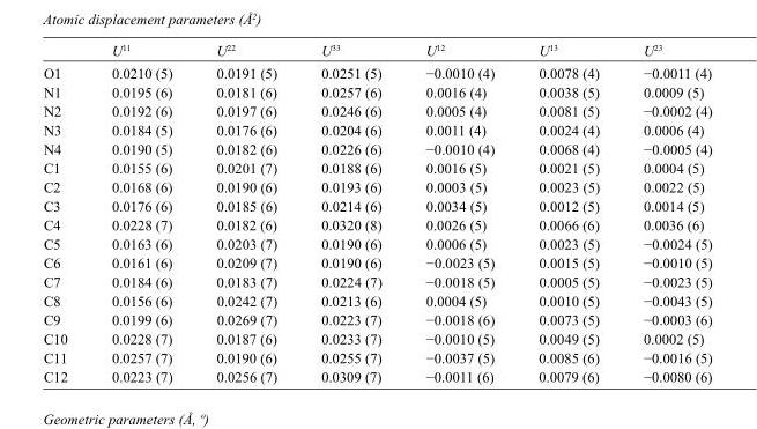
<table><thead><tr><td></td><td>U<sup>11</sup></td><td>U<sup>22</sup></td><td>U<sup>33</sup></td><td>U<sup>12</sup></td><td>U<sup>13</sup></td><td>U<sup>23</sup></td></tr></thead><tbody><tr><td>O1</td><td>0.0210 (5)</td><td>0.0191 (5)</td><td>0.0251 (5)</td><td>−0.0010 (4)</td><td>0.0078 (4)</td><td>−0.0011 (4)</td></tr><tr><td>N1</td><td>0.0195 (6)</td><td>0.0181 (6)</td><td>0.0257 (6)</td><td>0.0016 (4)</td><td>0.0038 (5)</td><td>0.0009 (5)</td></tr><tr><td>N2</td><td>0.0192 (6)</td><td>0.0197 (6)</td><td>0.0246 (6)</td><td>0.0005 (4)</td><td>0.0081 (5)</td><td>−0.0002 (4)</td></tr><tr><td>N3</td><td>0.0184 (5)</td><td>0.0176 (6)</td><td>0.0204 (6)</td><td>0.0011 (4)</td><td>0.0024 (4)</td><td>0.0006 (4)</td></tr><tr><td>N4</td><td>0.0190 (5)</td><td>0.0182 (6)</td><td>0.0226 (6)</td><td>−0.0010 (4)</td><td>0.0068 (4)</td><td>−0.0005 (4)</td></tr><tr><td>C1</td><td>0.0155 (6)</td><td>0.0201 (7)</td><td>0.0188 (6)</td><td>0.0016 (5)</td><td>0.0021 (5)</td><td>0.0004 (5)</td></tr><tr><td>C2</td><td>0.0168 (6)</td><td>0.0190 (6)</td><td>0.0193 (6)</td><td>0.0003 (5)</td><td>0.0023 (5)</td><td>0.0022 (5)</td></tr><tr><td>C3</td><td>0.0176 (6)</td><td>0.0185 (6)</td><td>0.0214 (6)</td><td>0.0034 (5)</td><td>0.0012 (5)</td><td>0.0014 (5)</td></tr><tr><td>C4</td><td>0.0228 (7)</td><td>0.0182 (6)</td><td>0.0320 (8)</td><td>0.0026 (5)</td><td>0.0066 (6)</td><td>0.0036 (6)</td></tr><tr><td>C5</td><td>0.0163 (6)</td><td>0.0203 (7)</td><td>0.0190 (6)</td><td>0.0006 (5)</td><td>0.0023 (5)</td><td>−0.0024 (5)</td></tr><tr><td>C6</td><td>0.0161 (6)</td><td>0.0209 (7)</td><td>0.0190 (6)</td><td>−0.0023 (5)</td><td>0.0015 (5)</td><td>−0.0010 (5)</td></tr><tr><td>C7</td><td>0.0184 (6)</td><td>0.0183 (7)</td><td>0.0224 (7)</td><td>−0.0018 (5)</td><td>0.0005 (5)</td><td>−0.0023 (5)</td></tr><tr><td>C8</td><td>0.0156 (6)</td><td>0.0242 (7)</td><td>0.0213 (6)</td><td>0.0004 (5)</td><td>0.0010 (5)</td><td>−0.0043 (5)</td></tr><tr><td>C9</td><td>0.0199 (6)</td><td>0.0269 (7)</td><td>0.0223 (7)</td><td>−0.0018 (6)</td><td>0.0073 (5)</td><td>−0.0003 (6)</td></tr><tr><td>C10</td><td>0.0228 (7)</td><td>0.0187 (6)</td><td>0.0233 (7)</td><td>−0.0010 (5)</td><td>0.0049 (5)</td><td>0.0002 (5)</td></tr><tr><td>C11</td><td>0.0257 (7)</td><td>0.0190 (6)</td><td>0.0255 (7)</td><td>−0.0037 (5)</td><td>0.0085 (6)</td><td>−0.0016 (5)</td></tr><tr><td>C12</td><td>0.0223 (7)</td><td>0.0256 (7)</td><td>0.0309 (7)</td><td>−0.0011 (6)</td><td>0.0079 (6)</td><td>−0.0080 (6)</td></tr></tbody></table>